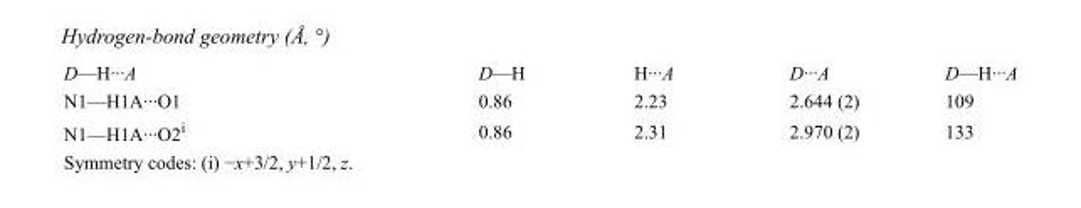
<table><tbody><tr><td>D—H···A</td><td>D—H</td><td>H···A</td><td>D···A</td><td>D—H···A</td></tr><tr><td>N1—H1A···O1</td><td>0.86</td><td>2.23</td><td>2.644 (2)</td><td>109</td></tr><tr><td>N1—H1A···O2<sup>i</sup></td><td>0.86</td><td>2.31</td><td>2.970 (2)</td><td>133</td></tr></tbody></table>